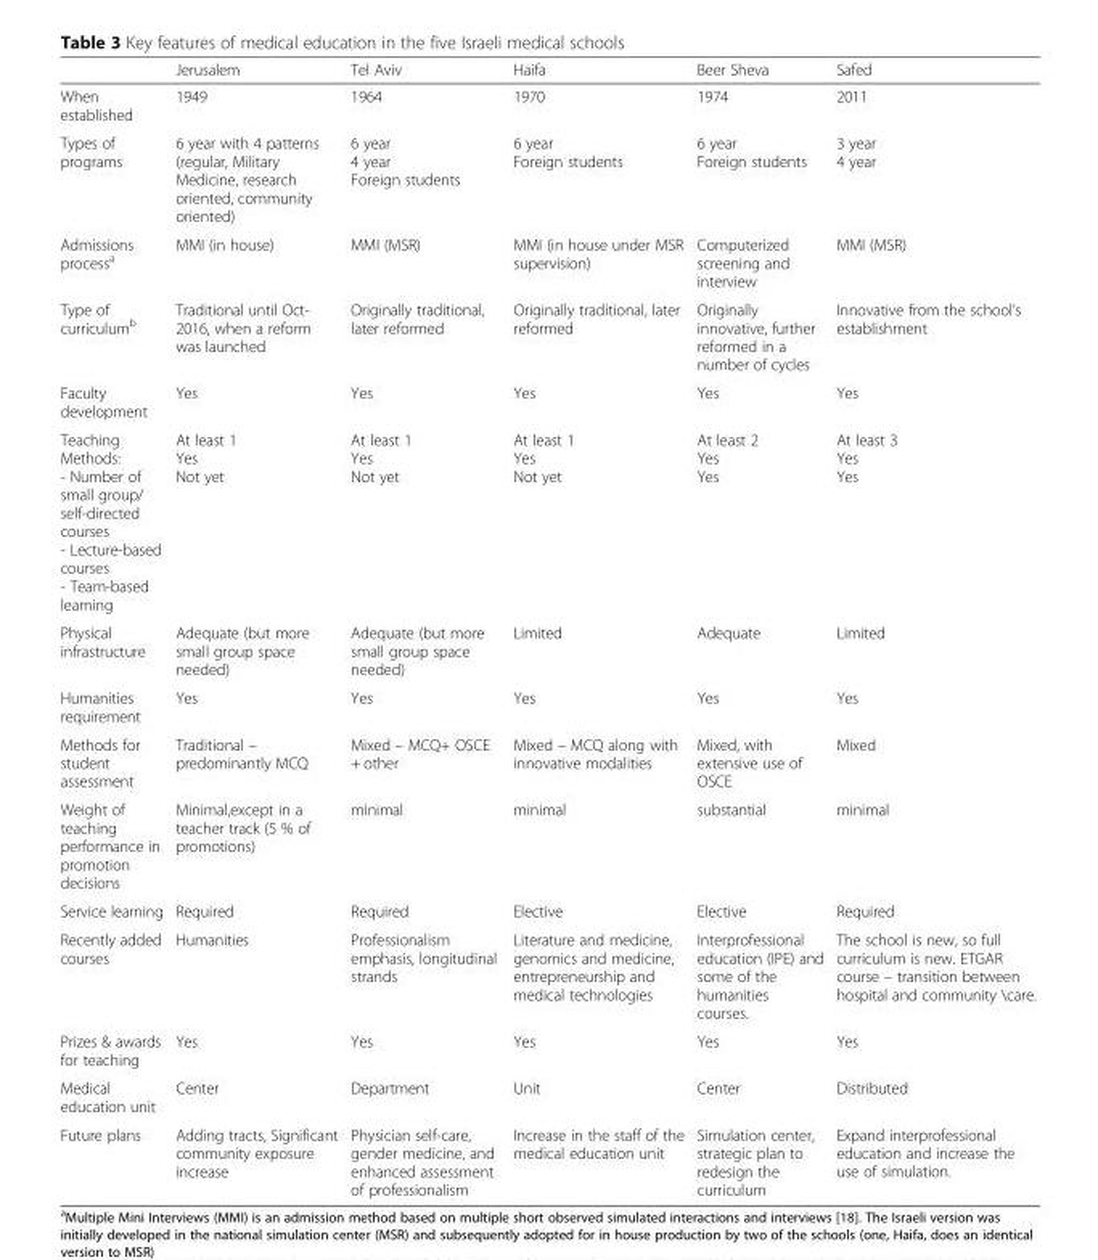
<table><thead><tr><td></td><td>Jerusalem</td><td>Tel Aviv</td><td>Haifa</td><td>Beer Sheva</td><td>Safed</td></tr></thead><tbody><tr><td>When established</td><td>1949</td><td>1964</td><td>1970</td><td>1974</td><td>2011</td></tr><tr><td>Types of programs</td><td>6 year with 4 patterns (regular, Military Medicine, research oriented, community oriented)</td><td>6 year 4 year Foreign students</td><td>6 year Foreign students</td><td>6 year Foreign students</td><td>3 year 4 year</td></tr><tr><td>Admissions process<sup>a</sup></td><td>MMI (in house)</td><td>MMI (MSR)</td><td>MMI (in house under MSR supervision)</td><td>Computerized screening and interview</td><td>MMI (MSR)</td></tr><tr><td>Type of curriculum<sup>b</sup></td><td>Traditional until Oct- 2016, when a reform was launched</td><td>Originally traditional, later reformed</td><td>Originally traditional, later reformed</td><td>Originally innovative, further reformed in a number of cycles</td><td>Innovative from the school’s establishment</td></tr><tr><td>Faculty development</td><td>Yes</td><td>Yes</td><td>Yes</td><td>Yes</td><td>Yes</td></tr><tr><td>Teaching Methods: - Number of small group/ self-directed courses - Lecture-based courses - Team-based learning</td><td>At least 1 Yes Not yet</td><td>At least 1 Yes Not yet</td><td>At least 1 Yes Not yet</td><td>At least 2 Yes Yes</td><td>At least 3 Yes Yes</td></tr><tr><td>Physical infrastructure</td><td>Adequate (but more small group space needed)</td><td>Adequate (but more small group space needed)</td><td>Limited</td><td>Adequate</td><td>Limited</td></tr><tr><td>Humanities requirement</td><td>Yes</td><td>Yes</td><td>Yes</td><td>Yes</td><td>Yes</td></tr><tr><td>Methods for student assessment</td><td>Traditional – predominantly MCQ</td><td>Mixed – MCQ+ OSCE + other</td><td>Mixed – MCQ along with innovative modalities</td><td>Mixed, with extensive use of OSCE</td><td>Mixed</td></tr><tr><td>Weight of teaching performance in promotion decisions</td><td>Minimal,except in a teacher track (5 % of promotions)</td><td>minimal</td><td>minimal</td><td>substantial</td><td>minimal</td></tr><tr><td>Service learning</td><td>Required</td><td>Required</td><td>Elective</td><td>Elective</td><td>Required</td></tr><tr><td>Recently added courses</td><td>Humanities</td><td>Professionalism emphasis, longitudinal strands</td><td>Literature and medicine, genomics and medicine, entrepreneurship and medical technologies</td><td>Interprofessional education (IPE) and some of the humanities courses.</td><td>The school is new, so full curriculum is new. ETGAR course – transition between hospital and community \care.</td></tr><tr><td>Prizes &amp; awards for teaching</td><td>Yes</td><td>Yes</td><td>Yes</td><td>Yes</td><td>Yes</td></tr><tr><td>Medical education unit</td><td>Center</td><td>Department</td><td>Unit</td><td>Center</td><td>Distributed</td></tr><tr><td>Future plans</td><td>Adding tracts, Significant community exposure increase</td><td>Physician self-care, gender medicine, and enhanced assessment of professionalism</td><td>Increase in the staff of the medical education unit</td><td>Simulation center, strategic plan to redesign the curriculum</td><td>Expand interprofessional education and increase the use of simulation.</td></tr></tbody></table>